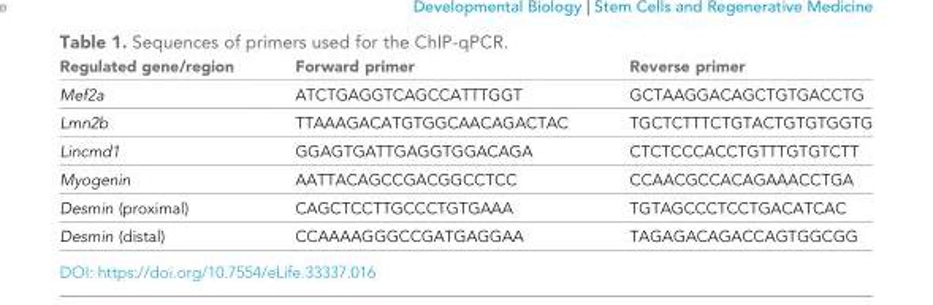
<table><thead><tr><td>Regulated gene/region</td><td>Forward primer</td><td>Reverse primer</td></tr></thead><tbody><tr><td>Mef2a</td><td>ATCTGAGGTCAGCCATTTGGT</td><td>GCTAAGGACAGCTGTGACCTG</td></tr><tr><td>Lmn2b</td><td>TTAAAGACATGTGGCAACAGACTAC</td><td>TGCTCTTTCTGTACTGTGTGGTG</td></tr><tr><td>Lincmd1</td><td>GGAGTGATTGAGGTGGACAGA</td><td>CTCTCCCACCTGTTTGTGTCTT</td></tr><tr><td>Myogenin</td><td>AATTACAGCCGACGGCCTCC</td><td>CCAACGCCACAGAAACCTGA</td></tr><tr><td>Desmin (proximal)</td><td>CAGCTCCTTGCCCTGTGAAA</td><td>TGTAGCCCTCCTGACATCAC</td></tr><tr><td>Desmin (distal)</td><td>CCAAAAGGGCCGATGAGGAA</td><td>TAGAGACAGACCAGTGGCGG</td></tr></tbody></table>